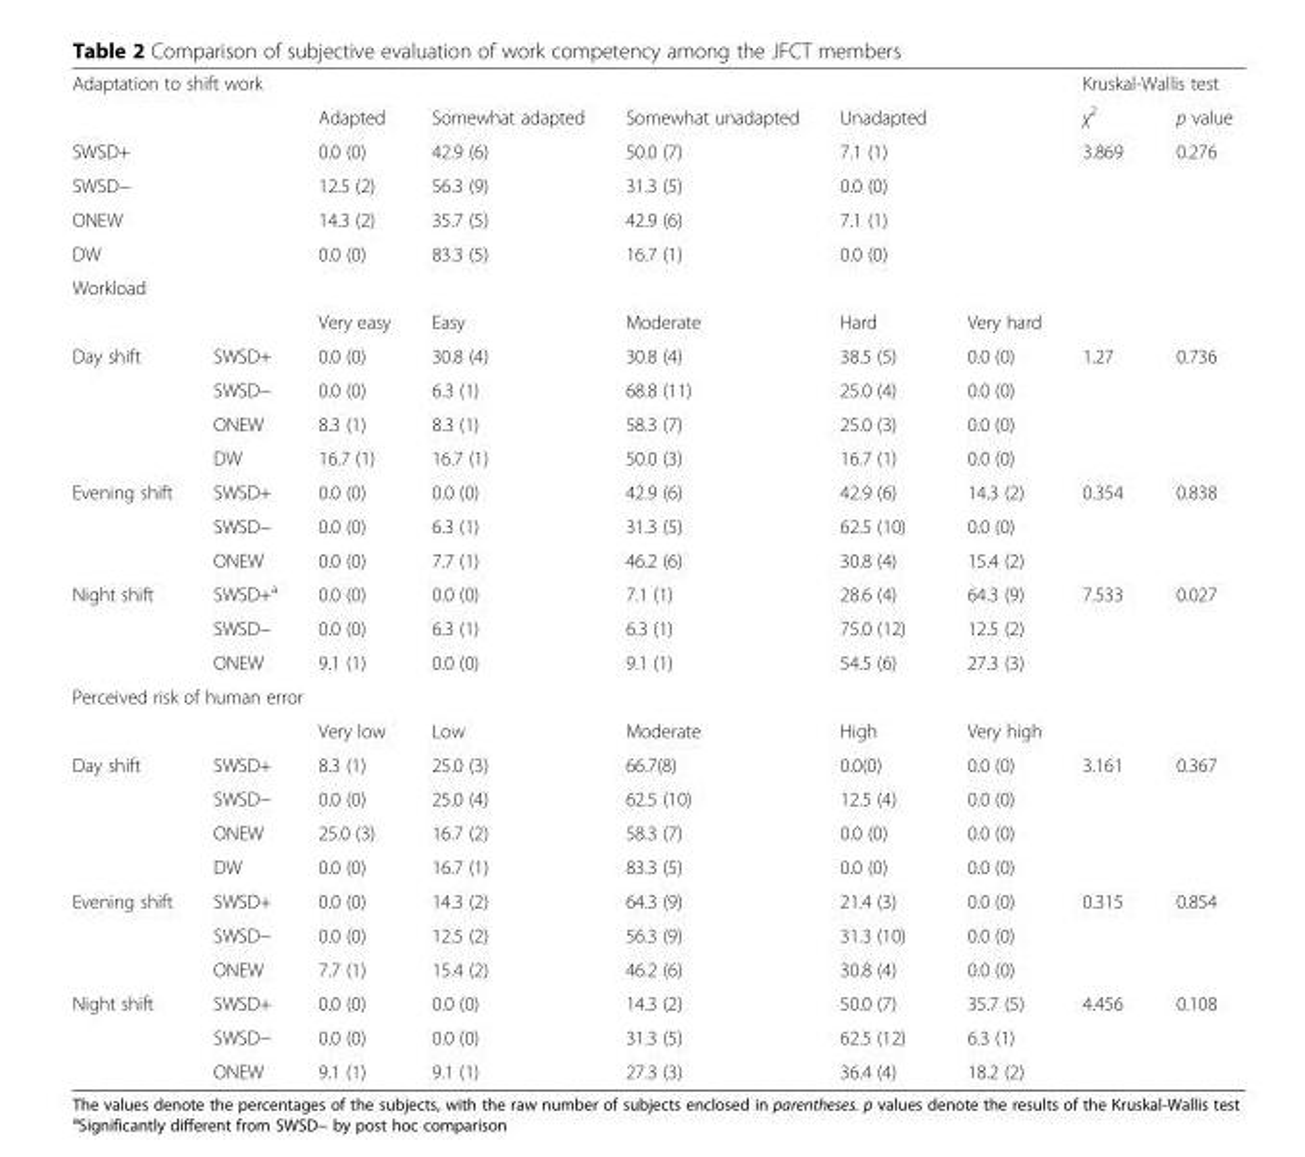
<table><tbody><tr><td colspan="6">Adaptation to shift work</td><td></td><td colspan="2">Kruskal-Wallis test</td></tr><tr><td colspan="2"></td><td>Adapted</td><td>Somewhat adapted</td><td>Somewhat unadapted</td><td>Unadapted</td><td></td><td>χ<sup>2</sup></td><td>p value</td></tr><tr><td colspan="2">SWSD+</td><td>0.0 (0)</td><td>42.9 (6)</td><td>50.0 (7)</td><td>7.1 (1)</td><td></td><td rowspan="4">3.869</td><td rowspan="4">0.276</td></tr><tr><td colspan="2">SWSD−</td><td>12.5 (2)</td><td>56.3 (9)</td><td>31.3 (5)</td><td>0.0 (0)</td><td></td></tr><tr><td colspan="2">ONEW</td><td>14.3 (2)</td><td>35.7 (5)</td><td>42.9 (6)</td><td>7.1 (1)</td><td></td></tr><tr><td colspan="2">DW</td><td>0.0 (0)</td><td>83.3 (5)</td><td>16.7 (1)</td><td>0.0 (0)</td><td></td></tr><tr><td colspan="9">Workload</td></tr><tr><td colspan="2"></td><td>Very easy</td><td>Easy</td><td>Moderate</td><td>Hard</td><td>Very hard</td><td></td><td></td></tr><tr><td rowspan="4">Day shift</td><td>SWSD+</td><td>0.0 (0)</td><td>30.8 (4)</td><td>30.8 (4)</td><td>38.5 (5)</td><td>0.0 (0)</td><td rowspan="4">1.27</td><td rowspan="4">0.736</td></tr><tr><td>SWSD−</td><td>0.0 (0)</td><td>6.3 (1)</td><td>68.8 (11)</td><td>25.0 (4)</td><td>0.0 (0)</td></tr><tr><td>ONEW</td><td>8.3 (1)</td><td>8.3 (1)</td><td>58.3 (7)</td><td>25.0 (3)</td><td>0.0 (0)</td></tr><tr><td>DW</td><td>16.7 (1)</td><td>16.7 (1)</td><td>50.0 (3)</td><td>16.7 (1)</td><td>0.0 (0)</td></tr><tr><td rowspan="3">Evening shift</td><td>SWSD+</td><td>0.0 (0)</td><td>0.0 (0)</td><td>42.9 (6)</td><td>42.9 (6)</td><td>14.3 (2)</td><td rowspan="3">0.354</td><td rowspan="3">0.838</td></tr><tr><td>SWSD−</td><td>0.0 (0)</td><td>6.3 (1)</td><td>31.3 (5)</td><td>62.5 (10)</td><td>0.0 (0)</td></tr><tr><td>ONEW</td><td>0.0 (0)</td><td>7.7 (1)</td><td>46.2 (6)</td><td>30.8 (4)</td><td>15.4 (2)</td></tr><tr><td rowspan="3">Night shift</td><td>SWSD+<sup>a</sup></td><td>0.0 (0)</td><td>0.0 (0)</td><td>7.1 (1)</td><td>28.6 (4)</td><td>64.3 (9)</td><td rowspan="3">7.533</td><td rowspan="3">0.027</td></tr><tr><td>SWSD−</td><td>0.0 (0)</td><td>6.3 (1)</td><td>6.3 (1)</td><td>75.0 (12)</td><td>12.5 (2)</td></tr><tr><td>ONEW</td><td>9.1 (1)</td><td>0.0 (0)</td><td>9.1 (1)</td><td>54.5 (6)</td><td>27.3 (3)</td></tr><tr><td colspan="9">Perceived risk of human error</td></tr><tr><td colspan="2"></td><td>Very low</td><td>Low</td><td>Moderate</td><td>High</td><td>Very high</td><td></td><td></td></tr><tr><td rowspan="4">Day shift</td><td>SWSD+</td><td>8.3 (1)</td><td>25.0 (3)</td><td>66.7(8)</td><td>0.0(0)</td><td>0.0 (0)</td><td rowspan="4">3.161</td><td rowspan="4">0.367</td></tr><tr><td>SWSD−</td><td>0.0 (0)</td><td>25.0 (4)</td><td>62.5 (10)</td><td>12.5 (4)</td><td>0.0 (0)</td></tr><tr><td>ONEW</td><td>25.0 (3)</td><td>16.7 (2)</td><td>58.3 (7)</td><td>0.0 (0)</td><td>0.0 (0)</td></tr><tr><td>DW</td><td>0.0 (0)</td><td>16.7 (1)</td><td>83.3 (5)</td><td>0.0 (0)</td><td>0.0 (0)</td></tr><tr><td rowspan="3">Evening shift</td><td>SWSD+</td><td>0.0 (0)</td><td>14.3 (2)</td><td>64.3 (9)</td><td>21.4 (3)</td><td>0.0 (0)</td><td rowspan="3">0.315</td><td rowspan="3">0.854</td></tr><tr><td>SWSD−</td><td>0.0 (0)</td><td>12.5 (2)</td><td>56.3 (9)</td><td>31.3 (10)</td><td>0.0 (0)</td></tr><tr><td>ONEW</td><td>7.7 (1)</td><td>15.4 (2)</td><td>46.2 (6)</td><td>30.8 (4)</td><td>0.0 (0)</td></tr><tr><td rowspan="3">Night shift</td><td>SWSD+</td><td>0.0 (0)</td><td>0.0 (0)</td><td>14.3 (2)</td><td>50.0 (7)</td><td>35.7 (5)</td><td rowspan="3">4.456</td><td rowspan="3">0.108</td></tr><tr><td>SWSD−</td><td>0.0 (0)</td><td>0.0 (0)</td><td>31.3 (5)</td><td>62.5 (12)</td><td>6.3 (1)</td></tr><tr><td>ONEW</td><td>9.1 (1)</td><td>9.1 (1)</td><td>27.3 (3)</td><td>36.4 (4)</td><td>18.2 (2)</td></tr></tbody></table>